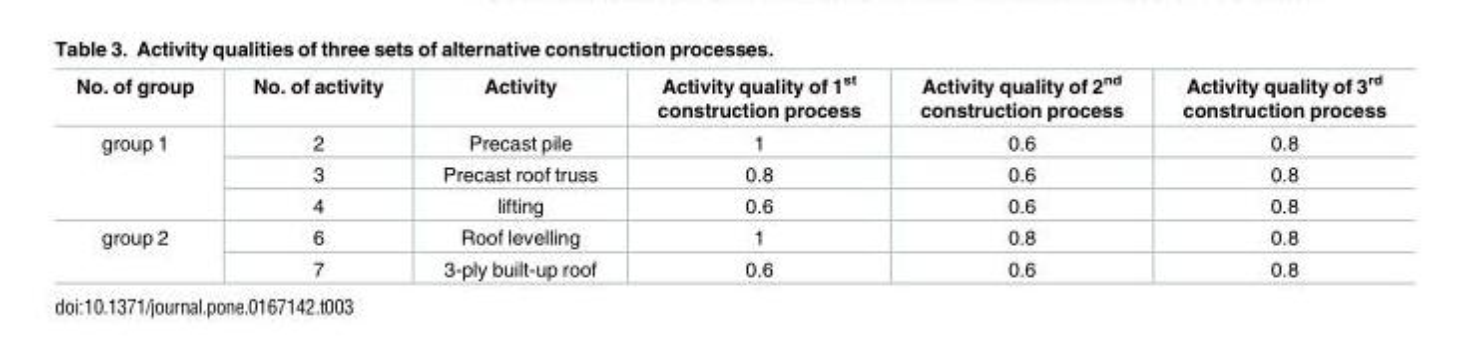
<table><thead><tr><td>No. of group</td><td>No. of activity</td><td>Activity</td><td>Activity quality of 1<sup>st</sup> construction process</td><td>Activity quality of 2<sup>nd</sup> construction process</td><td>Activity quality of 3<sup>rd</sup> construction process</td></tr></thead><tbody><tr><td rowspan="3">group 1</td><td>2</td><td>Precast pile</td><td>1</td><td>0.6</td><td>0.8</td></tr><tr><td>3</td><td>Precast roof truss</td><td>0.8</td><td>0.6</td><td>0.8</td></tr><tr><td>4</td><td>lifting</td><td>0.6</td><td>0.6</td><td>0.8</td></tr><tr><td rowspan="2">group 2</td><td>6</td><td>Roof levelling</td><td>1</td><td>0.8</td><td>0.8</td></tr><tr><td>7</td><td>3-ply built-up roof</td><td>0.6</td><td>0.6</td><td>0.8</td></tr></tbody></table>